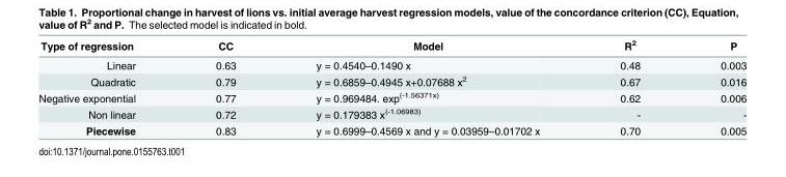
<table><thead><tr><td>Type of regression</td><td>CC</td><td>Model</td><td>R<sup>2</sup></td><td>P</td></tr></thead><tbody><tr><td>Linear</td><td>0.63</td><td>y = 0.4540–0.1490 x</td><td>0.48</td><td>0.003</td></tr><tr><td>Quadratic</td><td>0.79</td><td>y = 0.6859–0.4945 x+0.07688 x<sup>2</sup></td><td>0.67</td><td>0.016</td></tr><tr><td>Negative exponential</td><td>0.77</td><td>y = 0.969484. exp<sup>(-1.56371x)</sup></td><td>0.62</td><td>0.006</td></tr><tr><td>Non linear</td><td>0.72</td><td>y = 0.179383 x<sup>(-1.06983)</sup></td><td>-</td><td>-</td></tr><tr><td>Piecewise</td><td>0.83</td><td>y = 0.6999–0.4569 x and y = 0.03959–0.01702 x</td><td>0.70</td><td>0.005</td></tr></tbody></table>